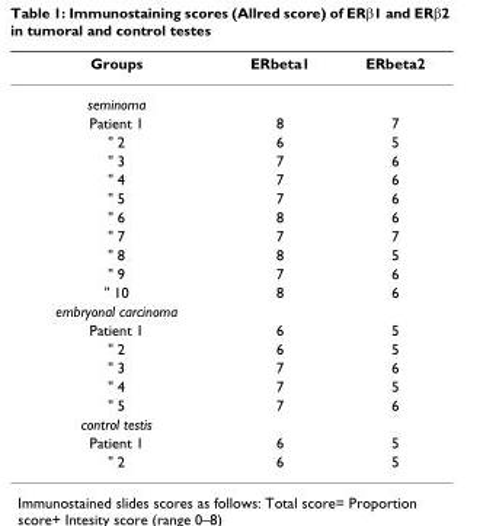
<table><thead><tr><td>Groups</td><td>ERbeta1</td><td>ERbeta2</td></tr></thead><tbody><tr><td colspan="3">seminoma</td></tr><tr><td>Patient 1</td><td>8</td><td>7</td></tr><tr><td>&quot; 2</td><td>6</td><td>5</td></tr><tr><td>&quot; 3</td><td>7</td><td>6</td></tr><tr><td>&quot; 4</td><td>7</td><td>6</td></tr><tr><td>&quot; 5</td><td>7</td><td>6</td></tr><tr><td>&quot; 6</td><td>8</td><td>6</td></tr><tr><td>&quot; 7</td><td>7</td><td>7</td></tr><tr><td>&quot; 8</td><td>8</td><td>5</td></tr><tr><td>&quot; 9</td><td>7</td><td>6</td></tr><tr><td>&quot; 10</td><td>8</td><td>6</td></tr><tr><td colspan="3">embryonal carcinoma</td></tr><tr><td>Patient 1</td><td>6</td><td>5</td></tr><tr><td>&quot; 2</td><td>6</td><td>5</td></tr><tr><td>&quot; 3</td><td>7</td><td>6</td></tr><tr><td>&quot; 4</td><td>7</td><td>5</td></tr><tr><td>&quot; 5</td><td>7</td><td>6</td></tr><tr><td colspan="3">control testis</td></tr><tr><td>Patient 1</td><td>6</td><td>5</td></tr><tr><td>&quot; 2</td><td>6</td><td>5</td></tr></tbody></table>